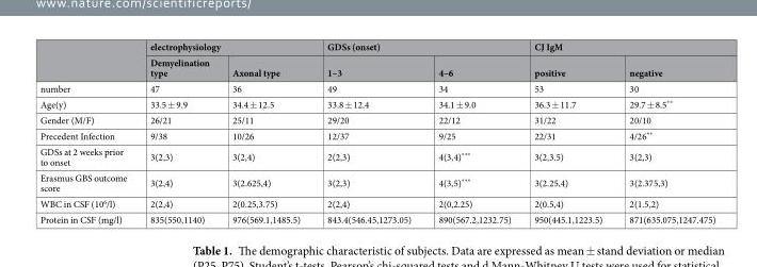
<table><thead><tr><td rowspan="2"></td><td colspan="2">electrophysiology</td><td colspan="2">GDSs (onset)</td><td colspan="2">CJ IgM</td></tr><tr><td>Demyelination type</td><td>Axonal type</td><td>1–3</td><td>4–6</td><td>positive</td><td>negative</td></tr></thead><tbody><tr><td>number</td><td>47</td><td>36</td><td>49</td><td>34</td><td>53</td><td>30</td></tr><tr><td>Age(y)</td><td>33.5 ± 9.9</td><td>34.4 ± 12.5</td><td>33.8 ± 12.4</td><td>34.1 ± 9.0</td><td>36.3 ± 11.7</td><td>29.7 ± 8.5**</td></tr><tr><td>Gender (M/F)</td><td>26/21</td><td>25/11</td><td>29/20</td><td>22/12</td><td>31/22</td><td>20/10</td></tr><tr><td>Precedent Infection</td><td>9/38</td><td>10/26</td><td>12/37</td><td>9/25</td><td>22/31</td><td>4/26**</td></tr><tr><td>GDSs at 2 weeks prior to onset</td><td>3(2,3)</td><td>3(2,4)</td><td>2(2,3)</td><td>4(3,4)***</td><td>3(2,3.5)</td><td>3(2,3)</td></tr><tr><td>Erasmus GBS outcome score</td><td>3(2,4)</td><td>3(2.625,4)</td><td>3(2,3)</td><td>4(3,5)***</td><td>3(2.25,4)</td><td>3(2.375,3)</td></tr><tr><td>WBC in CSF (10<sup>6</sup>/l)</td><td>2(2,4)</td><td>2(0.25,3.75)</td><td>2(2,4)</td><td>2(0,2.25)</td><td>2(0.5,4)</td><td>2(1.5,2)</td></tr><tr><td>Protein in CSF (mg/l)</td><td>835(550,1140)</td><td>976(569.1,1485.5)</td><td>843.4(546.45,1273.05)</td><td>890(567.2,1232.75)</td><td>950(445.1,1223.5)</td><td>871(635.075,1247.475)</td></tr></tbody></table>